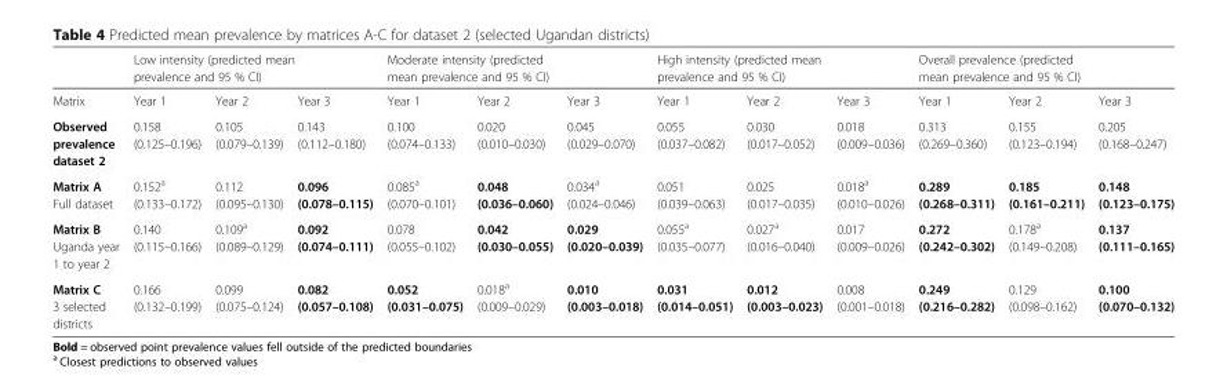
<table><thead><tr><td rowspan="2">Matrix</td><td colspan="3">Low intensity (predicted mean prevalence and 95 % CI)</td><td colspan="3">Moderate intensity (predicted mean prevalence and 95 % CI)</td><td colspan="3">High intensity (predicted mean prevalence and 95 % CI)</td><td colspan="3">Overall prevalence (predicted mean prevalence and 95 % CI)</td></tr><tr><td>Year 1</td><td>Year 2</td><td>Year 3</td><td>Year 1</td><td>Year 2</td><td>Year 3</td><td>Year 1</td><td>Year 2</td><td>Year 3</td><td>Year 1</td><td>Year 2</td><td>Year 3</td></tr></thead><tbody><tr><td>Observed prevalence dataset 2</td><td>0.158 (0.125–0.196)</td><td>0.105 (0.079–0.139)</td><td>0.143 (0.112–0.180)</td><td>0.100 (0.074–0.133)</td><td>0.020 (0.010–0.030)</td><td>0.045 (0.029–0.070)</td><td>0.055 (0.037–0.082)</td><td>0.030 (0.017–0.052)</td><td>0.018 (0.009–0.036)</td><td>0.313 (0.269–0.360)</td><td>0.155 (0.123–0.194)</td><td>0.205 (0.168–0.247)</td></tr><tr><td>Matrix A Full dataset</td><td>0.152<sup>a</sup> (0.133–0.172)</td><td>0.112 (0.095–0.130)</td><td>0.096 (0.078–0.115)</td><td>0.085<sup>a</sup> (0.070–0.101)</td><td>0.048 (0.036–0.060)</td><td>0.034<sup>a</sup> (0.024–0.046)</td><td>0.051 (0.039–0.063)</td><td>0.025 (0.017–0.035)</td><td>0.018<sup>a</sup> (0.010–0.026)</td><td>0.289 (0.268–0.311)</td><td>0.185 (0.161–0.211)</td><td>0.148 (0.123–0.175)</td></tr><tr><td>Matrix B Uganda year 1 to year 2</td><td>0.140 (0.115–0.166)</td><td>0.109<sup>a</sup> (0.089–0.129)</td><td>0.092 (0.074–0.111)</td><td>0.078 (0.055–0.102)</td><td>0.042 (0.030–0.055)</td><td>0.029 (0.020–0.039)</td><td>0.055<sup>a</sup> (0.035–0.077)</td><td>0.027<sup>a</sup> (0.016–0.040)</td><td>0.017 (0.009–0.026)</td><td>0.272 (0.242–0.302)</td><td>0.178<sup>a</sup> (0.149–0.208)</td><td>0.137 (0.111–0.165)</td></tr><tr><td>Matrix C 3 selected districts</td><td>0.166 (0.132–0.199)</td><td>0.099 (0.075–0.124)</td><td>0.082 (0.057–0.108)</td><td>0.052 (0.031–0.075)</td><td>0.018<sup>a</sup> (0.009–0.029)</td><td>0.010 (0.003–0.018)</td><td>0.031 (0.014–0.051)</td><td>0.012 (0.003–0.023)</td><td>0.008 (0.001–0.018)</td><td>0.249 (0.216–0.282)</td><td>0.129 (0.098–0.162)</td><td>0.100 (0.070–0.132)</td></tr></tbody></table>